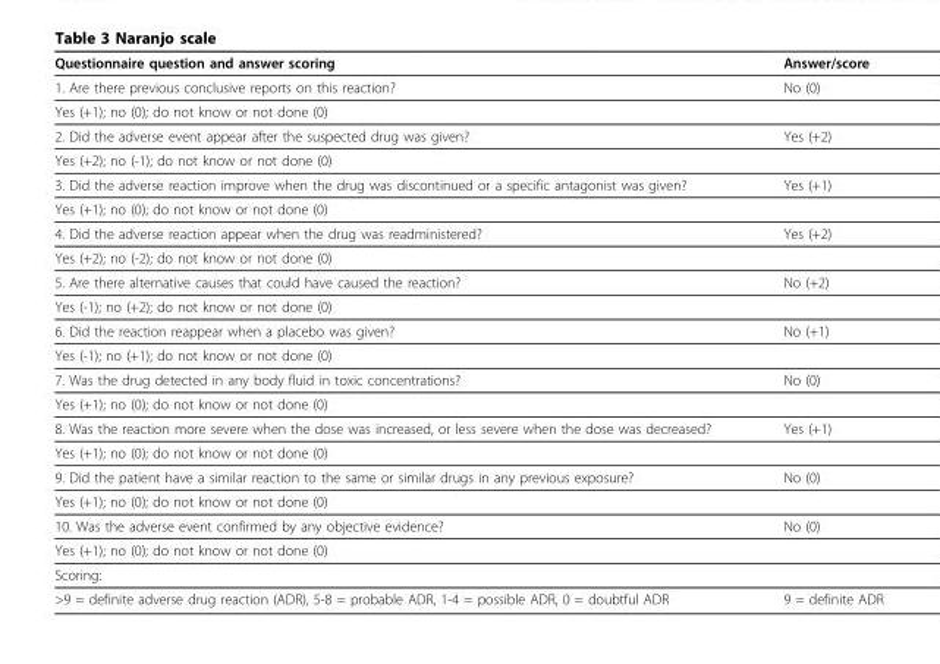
<table><thead><tr><td>Questionnaire question and answer scoring</td><td>Answer/score</td></tr></thead><tbody><tr><td>1. Are there previous conclusive reports on this reaction?</td><td>No (0)</td></tr><tr><td colspan="2">Yes (+1); no (0); do not know or not done (0)</td></tr><tr><td>2. Did the adverse event appear after the suspected drug was given?</td><td>Yes (+2)</td></tr><tr><td colspan="2">Yes (+2); no (-1); do not know or not done (0)</td></tr><tr><td>3. Did the adverse reaction improve when the drug was discontinued or a specific antagonist was given?</td><td>Yes (+1)</td></tr><tr><td colspan="2">Yes (+1); no (0); do not know or not done (0)</td></tr><tr><td>4. Did the adverse reaction appear when the drug was readministered?</td><td>Yes (+2)</td></tr><tr><td colspan="2">Yes (+2); no (-2); do not know or not done (0)</td></tr><tr><td>5. Are there alternative causes that could have caused the reaction?</td><td>No (+2)</td></tr><tr><td colspan="2">Yes (-1); no (+2); do not know or not done (0)</td></tr><tr><td>6. Did the reaction reappear when a placebo was given?</td><td>No (+1)</td></tr><tr><td colspan="2">Yes (-1); no (+1); do not know or not done (0)</td></tr><tr><td>7. Was the drug detected in any body fluid in toxic concentrations?</td><td>No (0)</td></tr><tr><td colspan="2">Yes (+1); no (0); do not know or not done (0)</td></tr><tr><td>8. Was the reaction more severe when the dose was increased, or less severe when the dose was decreased?</td><td>Yes (+1)</td></tr><tr><td colspan="2">Yes (+1); no (0); do not know or not done (0)</td></tr><tr><td>9. Did the patient have a similar reaction to the same or similar drugs in any previous exposure?</td><td>No (0)</td></tr><tr><td colspan="2">Yes (+1); no (0); do not know or not done (0)</td></tr><tr><td>10. Was the adverse event confirmed by any objective evidence?</td><td>No (0)</td></tr><tr><td colspan="2">Yes (+1); no (0); do not know or not done (0)</td></tr><tr><td colspan="2">Scoring:</td></tr><tr><td>&gt;9 = definite adverse drug reaction (ADR), 5-8 = probable ADR, 1-4 = possible ADR, 0 = doubtful ADR</td><td>9 = definite ADR</td></tr></tbody></table>